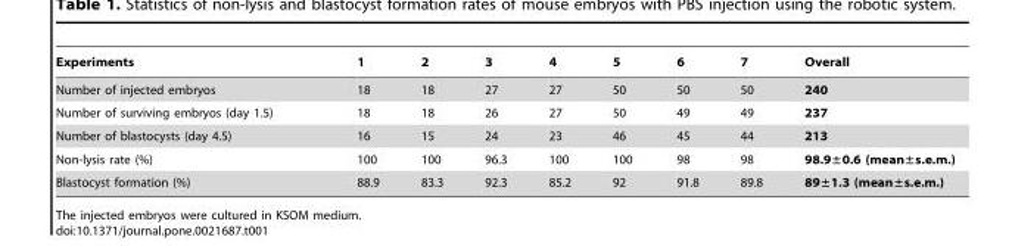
<table><thead><tr><td>Experiments</td><td>1</td><td>2</td><td>3</td><td>4</td><td>5</td><td>6</td><td>7</td><td>Overall</td></tr></thead><tbody><tr><td>Number of injected embryos</td><td>18</td><td>18</td><td>27</td><td>27</td><td>50</td><td>50</td><td>50</td><td>240</td></tr><tr><td>Number of surviving embryos (day 1.5)</td><td>18</td><td>18</td><td>26</td><td>27</td><td>50</td><td>49</td><td>49</td><td>237</td></tr><tr><td>Number of blastocysts (day 4.5)</td><td>16</td><td>15</td><td>24</td><td>23</td><td>46</td><td>45</td><td>44</td><td>213</td></tr><tr><td>Non-lysis rate (%)</td><td>100</td><td>100</td><td>96.3</td><td>100</td><td>100</td><td>98</td><td>98</td><td>98.9±0.6 (mean±s.e.m.)</td></tr><tr><td>Blastocyst formation (%)</td><td>88.9</td><td>83.3</td><td>92.3</td><td>85.2</td><td>92</td><td>91.8</td><td>89.8</td><td>89±1.3 (mean±s.e.m.)</td></tr></tbody></table>